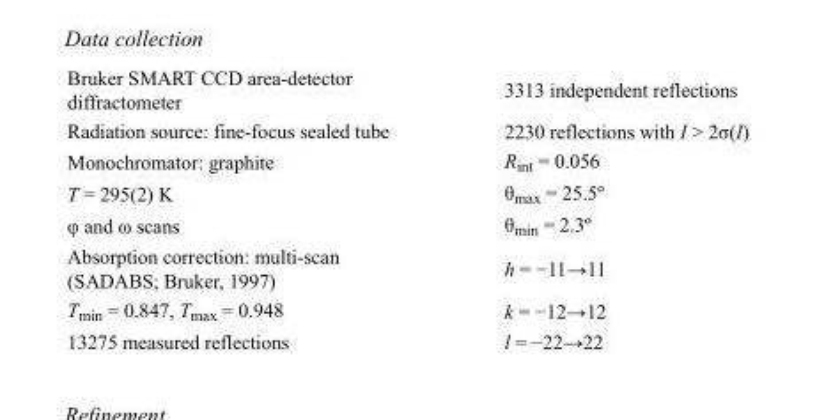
<table><tbody><tr><td>Bruker SMART CCD area-detector diffractometer</td><td>3313 independent reflections</td></tr><tr><td>Radiation source: fine-focus sealed tube</td><td>2230 reflections with I &gt; 2σ(I)</td></tr><tr><td>Monochromator: graphite</td><td>R<sub>int</sub> = 0.056</td></tr><tr><td>T = 295(2) K</td><td>θ<sub>max</sub> = 25.5º</td></tr><tr><td>φ and ω scans</td><td>θ<sub>min</sub> = 2.3º</td></tr><tr><td>Absorption correction: multi-scan (SADABS; Bruker, 1997)</td><td>h = −11→11</td></tr><tr><td>T<sub>min</sub> = 0.847, T<sub>max</sub> = 0.948</td><td>k = −12→12</td></tr><tr><td>13275 measured reflections</td><td>l = −22→22</td></tr></tbody></table>